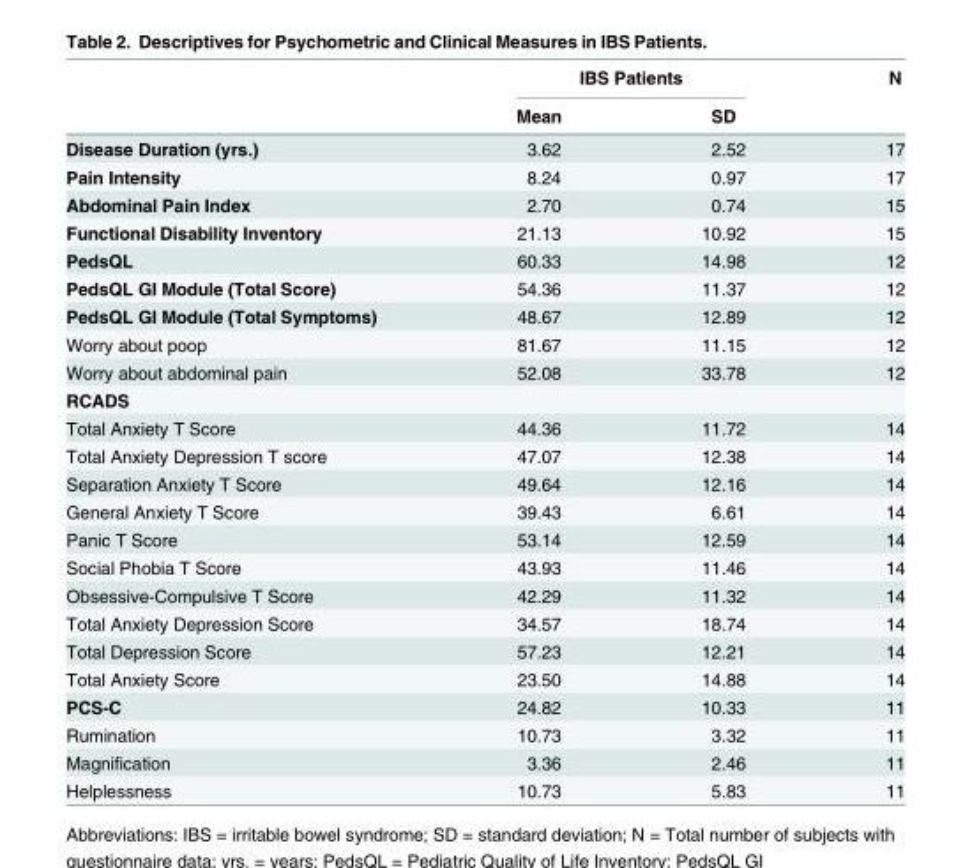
<table><thead><tr><td rowspan="2"></td><td colspan="2">IBS Patients</td><td rowspan="2">N</td></tr><tr><td>Mean</td><td>SD</td></tr></thead><tbody><tr><td>Disease Duration (yrs.)</td><td>3.62</td><td>2.52</td><td>17</td></tr><tr><td>Pain Intensity</td><td>8.24</td><td>0.97</td><td>17</td></tr><tr><td>Abdominal Pain Index</td><td>2.70</td><td>0.74</td><td>15</td></tr><tr><td>Functional Disability Inventory</td><td>21.13</td><td>10.92</td><td>15</td></tr><tr><td>PedsQL</td><td>60.33</td><td>14.98</td><td>12</td></tr><tr><td>PedsQL GI Module (Total Score)</td><td>54.36</td><td>11.37</td><td>12</td></tr><tr><td>PedsQL GI Module (Total Symptoms)</td><td>48.67</td><td>12.89</td><td>12</td></tr><tr><td>Worry about poop</td><td>81.67</td><td>11.15</td><td>12</td></tr><tr><td>Worry about abdominal pain</td><td>52.08</td><td>33.78</td><td>12</td></tr><tr><td colspan="4">RCADS</td></tr><tr><td>Total Anxiety T Score</td><td>44.36</td><td>11.72</td><td>14</td></tr><tr><td>Total Anxiety Depression T score</td><td>47.07</td><td>12.38</td><td>14</td></tr><tr><td>Separation Anxiety T Score</td><td>49.64</td><td>12.16</td><td>14</td></tr><tr><td>General Anxiety T Score</td><td>39.43</td><td>6.61</td><td>14</td></tr><tr><td>Panic T Score</td><td>53.14</td><td>12.59</td><td>14</td></tr><tr><td>Social Phobia T Score</td><td>43.93</td><td>11.46</td><td>14</td></tr><tr><td>Obsessive-Compulsive T Score</td><td>42.29</td><td>11.32</td><td>14</td></tr><tr><td>Total Anxiety Depression Score</td><td>34.57</td><td>18.74</td><td>14</td></tr><tr><td>Total Depression Score</td><td>57.23</td><td>12.21</td><td>14</td></tr><tr><td>Total Anxiety Score</td><td>23.50</td><td>14.88</td><td>14</td></tr><tr><td>PCS-C</td><td>24.82</td><td>10.33</td><td>11</td></tr><tr><td>Rumination</td><td>10.73</td><td>3.32</td><td>11</td></tr><tr><td>Magnification</td><td>3.36</td><td>2.46</td><td>11</td></tr><tr><td>Helplessness</td><td>10.73</td><td>5.83</td><td>11</td></tr></tbody></table>